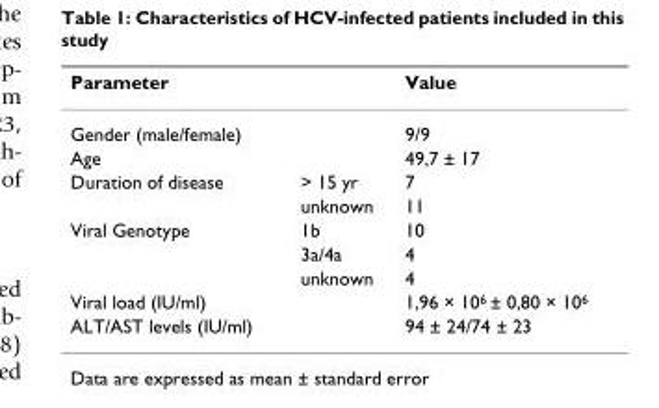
<table><thead><tr><td>Parameter</td><td></td><td>Value</td></tr></thead><tbody><tr><td>Gender (male/female)</td><td></td><td>9/9</td></tr><tr><td>Age</td><td></td><td>49,7 ± 17</td></tr><tr><td rowspan="2">Duration of disease</td><td>&gt; 15 yr</td><td>7</td></tr><tr><td>unknown</td><td>11</td></tr><tr><td rowspan="3">Viral Genotype</td><td>1b</td><td>10</td></tr><tr><td>3a/4a</td><td>4</td></tr><tr><td>unknown</td><td>4</td></tr><tr><td>Viral load (IU/ml)</td><td></td><td>1,96 × 10<sup>6</sup> ± 0,80 × 10<sup>6</sup></td></tr><tr><td>ALT/AST levels (IU/ml)</td><td></td><td>94 ± 24/74 ± 23</td></tr></tbody></table>